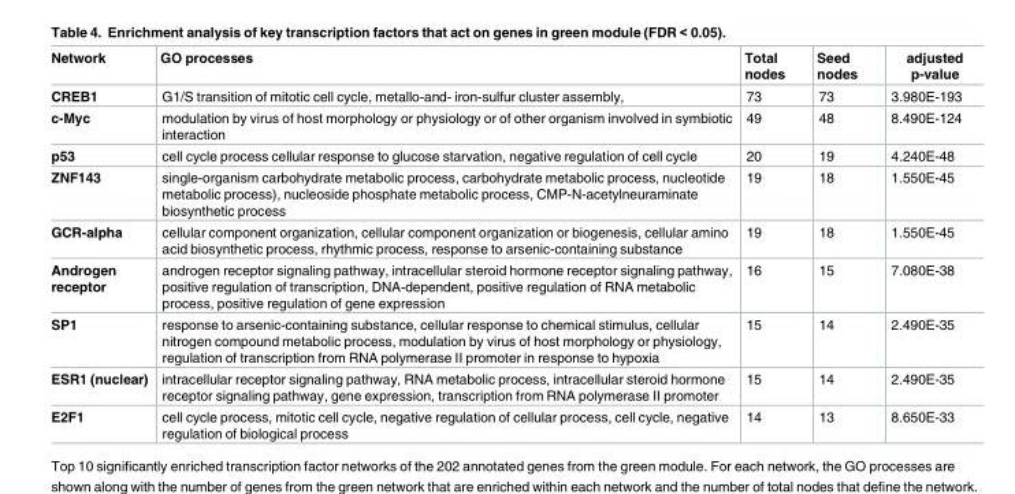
<table><thead><tr><td>Network</td><td>GO processes</td><td>Total nodes</td><td>Seed nodes</td><td>adjusted p-value</td></tr></thead><tbody><tr><td>CREB1</td><td>G1/S transition of mitotic cell cycle, metallo-and- iron-sulfur cluster assembly,</td><td>73</td><td>73</td><td>3.980E-193</td></tr><tr><td>c-Myc</td><td>modulation by virus of host morphology or physiology or of other organism involved in symbiotic interaction</td><td>49</td><td>48</td><td>8.490E-124</td></tr><tr><td>p53</td><td>cell cycle process cellular response to glucose starvation, negative regulation of cell cycle</td><td>20</td><td>19</td><td>4.240E-48</td></tr><tr><td>ZNF143</td><td>single-organism carbohydrate metabolic process, carbohydrate metabolic process, nucleotide metabolic process), nucleoside phosphate metabolic process, CMP-N-acetylneuraminate biosynthetic process</td><td>19</td><td>18</td><td>1.550E-45</td></tr><tr><td>GCR-alpha</td><td>cellular component organization, cellular component organization or biogenesis, cellular amino acid biosynthetic process, rhythmic process, response to arsenic-containing substance</td><td>19</td><td>18</td><td>1.550E-45</td></tr><tr><td>Androgen receptor</td><td>androgen receptor signaling pathway, intracellular steroid hormone receptor signaling pathway, positive regulation of transcription, DNA-dependent, positive regulation of RNA metabolic process, positive regulation of gene expression</td><td>16</td><td>15</td><td>7.080E-38</td></tr><tr><td>SP1</td><td>response to arsenic-containing substance, cellular response to chemical stimulus, cellular nitrogen compound metabolic process, modulation by virus of host morphology or physiology, regulation of transcription from RNA polymerase II promoter in response to hypoxia</td><td>15</td><td>14</td><td>2.490E-35</td></tr><tr><td>ESR1 (nuclear)</td><td>intracellular receptor signaling pathway, RNA metabolic process, intracellular steroid hormone receptor signaling pathway, gene expression, transcription from RNA polymerase II promoter</td><td>15</td><td>14</td><td>2.490E-35</td></tr><tr><td>E2F1</td><td>cell cycle process, mitotic cell cycle, negative regulation of cellular process, cell cycle, negative regulation of biological process</td><td>14</td><td>13</td><td>8.650E-33</td></tr></tbody></table>